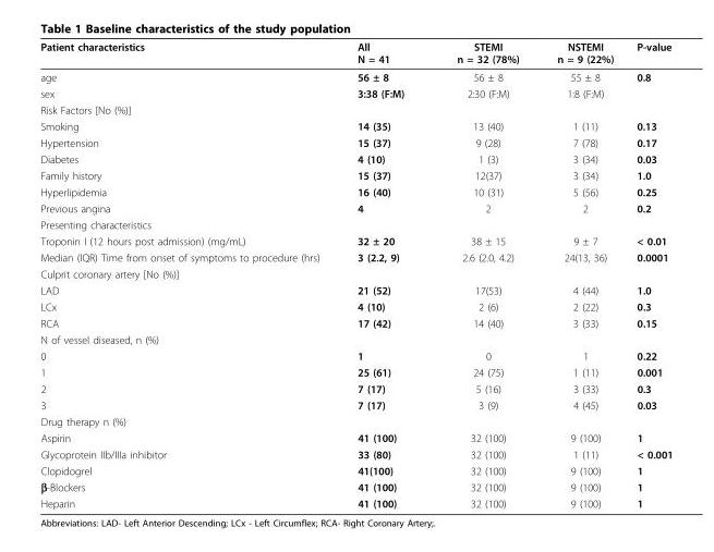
<table><thead><tr><td>Patient characteristics</td><td>All N = 41</td><td>STEMI n = 32 (78%)</td><td>NSTEMI n = 9 (22%)</td><td>P-value</td></tr></thead><tbody><tr><td>age</td><td>56 ± 8</td><td>56 ± 8</td><td>55 ± 8</td><td>0.8</td></tr><tr><td>sex</td><td>3:38 (F:M)</td><td>2:30 (F:M)</td><td>1:8 (F:M)</td><td></td></tr><tr><td colspan="5">Risk Factors [No (%)]</td></tr><tr><td>Smoking</td><td>14 (35)</td><td>13 (40)</td><td>1 (11)</td><td>0.13</td></tr><tr><td>Hypertension</td><td>15 (37)</td><td>9 (28)</td><td>7 (78)</td><td>0.17</td></tr><tr><td>Diabetes</td><td>4 (10)</td><td>1 (3)</td><td>3 (34)</td><td>0.03</td></tr><tr><td>Family history</td><td>15 (37)</td><td>12(37)</td><td>3 (34)</td><td>1.0</td></tr><tr><td>Hyperlipidemia</td><td>16 (40)</td><td>10 (31)</td><td>5 (56)</td><td>0.25</td></tr><tr><td>Previous angina</td><td>4</td><td>2</td><td>2</td><td>0.2</td></tr><tr><td colspan="5">Presenting characteristics</td></tr><tr><td>Troponin I (12 hours post admission) (mg/mL)</td><td>32 ± 20</td><td>38 ± 15</td><td>9 ± 7</td><td>&lt; 0.01</td></tr><tr><td>Median (IQR) Time from onset of symptoms to procedure (hrs)</td><td>3 (2.2, 9)</td><td>2.6 (2.0, 4.2)</td><td>24(13, 36)</td><td>0.0001</td></tr><tr><td colspan="5">Culprit coronary artery [No (%)]</td></tr><tr><td>LAD</td><td>21 (52)</td><td>17(53)</td><td>4 (44)</td><td>1.0</td></tr><tr><td>LCx</td><td>4 (10)</td><td>2 (6)</td><td>2 (22)</td><td>0.3</td></tr><tr><td>RCA</td><td>17 (42)</td><td>14 (40)</td><td>3 (33)</td><td>0.15</td></tr><tr><td colspan="5">N of vessel diseased, n (%)</td></tr><tr><td>0</td><td>1</td><td>0</td><td>1</td><td>0.22</td></tr><tr><td>1</td><td>25 (61)</td><td>24 (75)</td><td>1 (11)</td><td>0.001</td></tr><tr><td>2</td><td>7 (17)</td><td>5 (16)</td><td>3 (33)</td><td>0.3</td></tr><tr><td>3</td><td>7 (17)</td><td>3 (9)</td><td>4 (45)</td><td>0.03</td></tr><tr><td colspan="5">Drug therapy n (%)</td></tr><tr><td>Aspirin</td><td>41 (100)</td><td>32 (100)</td><td>9 (100)</td><td>1</td></tr><tr><td>Glycoprotein IIb/IIIa inhibitor</td><td>33 (80)</td><td>32 (100)</td><td>1 (11)</td><td>&lt; 0.001</td></tr><tr><td>Clopidogrel</td><td>41(100)</td><td>32 (100)</td><td>9 (100)</td><td>1</td></tr><tr><td>β-Blockers</td><td>41 (100)</td><td>32 (100)</td><td>9 (100)</td><td>1</td></tr><tr><td>Heparin</td><td>41 (100)</td><td>32 (100)</td><td>9 (100)</td><td>1</td></tr></tbody></table>